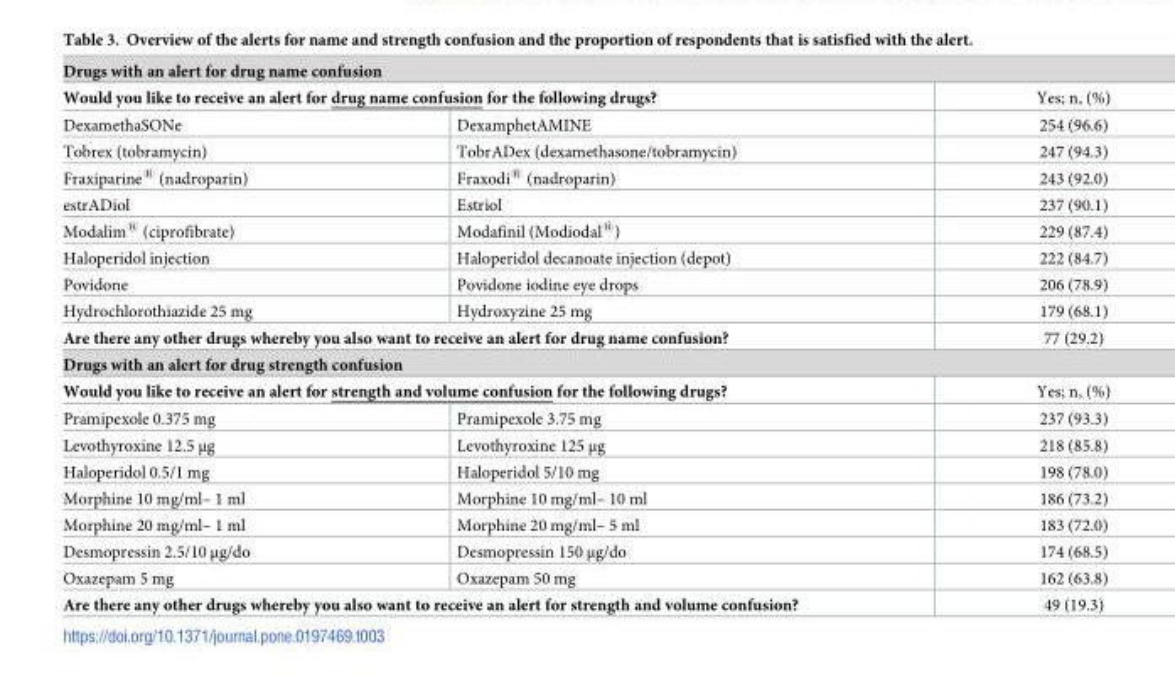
<table><tbody><tr><td colspan="3">Drugs with an alert for drug name confusion</td></tr><tr><td colspan="2">Would you like to receive an alert for drug name confusion for the following drugs?</td><td>Yes; n, (%)</td></tr><tr><td>DexamethaSONe</td><td>DexamphetAMINE</td><td>254 (96.6)</td></tr><tr><td>Tobrex (tobramycin)</td><td>TobrADex (dexamethasone/tobramycin)</td><td>247 (94.3)</td></tr><tr><td>Fraxiparine<sup>®</sup> (nadroparin)</td><td>Fraxodi<sup>®</sup> (nadroparin)</td><td>243 (92.0)</td></tr><tr><td>estrADiol</td><td>Estriol</td><td>237 (90.1)</td></tr><tr><td>Modalim<sup>®</sup> (ciprofibrate)</td><td>Modafinil (Modiodal<sup>®</sup>)</td><td>229 (87.4)</td></tr><tr><td>Haloperidol injection</td><td>Haloperidol decanoate injection (depot)</td><td>222 (84.7)</td></tr><tr><td>Povidone</td><td>Povidone iodine eye drops</td><td>206 (78.9)</td></tr><tr><td>Hydrochlorothiazide 25 mg</td><td>Hydroxyzine 25 mg</td><td>179 (68.1)</td></tr><tr><td colspan="2">Are there any other drugs whereby you also want to receive an alert for drug name confusion?</td><td>77 (29.2)</td></tr><tr><td colspan="3">Drugs with an alert for drug strength confusion</td></tr><tr><td colspan="2">Would you like to receive an alert for strength and volume confusion for the following drugs?</td><td>Yes; n, (%)</td></tr><tr><td>Pramipexole 0.375 mg</td><td>Pramipexole 3.75 mg</td><td>237 (93.3)</td></tr><tr><td>Levothyroxine 12.5 μg</td><td>Levothyroxine 125 μg</td><td>218 (85.8)</td></tr><tr><td>Haloperidol 0.5/1 mg</td><td>Haloperidol 5/10 mg</td><td>198 (78.0)</td></tr><tr><td>Morphine 10 mg/ml– 1 ml</td><td>Morphine 10 mg/ml– 10 ml</td><td>186 (73.2)</td></tr><tr><td>Morphine 20 mg/ml– 1 ml</td><td>Morphine 20 mg/ml– 5 ml</td><td>183 (72.0)</td></tr><tr><td>Desmopressin 2.5/10 μg/do</td><td>Desmopressin 150 μg/do</td><td>174 (68.5)</td></tr><tr><td>Oxazepam 5 mg</td><td>Oxazepam 50 mg</td><td>162 (63.8)</td></tr><tr><td colspan="2">Are there any other drugs whereby you also want to receive an alert for strength and volume confusion?</td><td>49 (19.3)</td></tr></tbody></table>